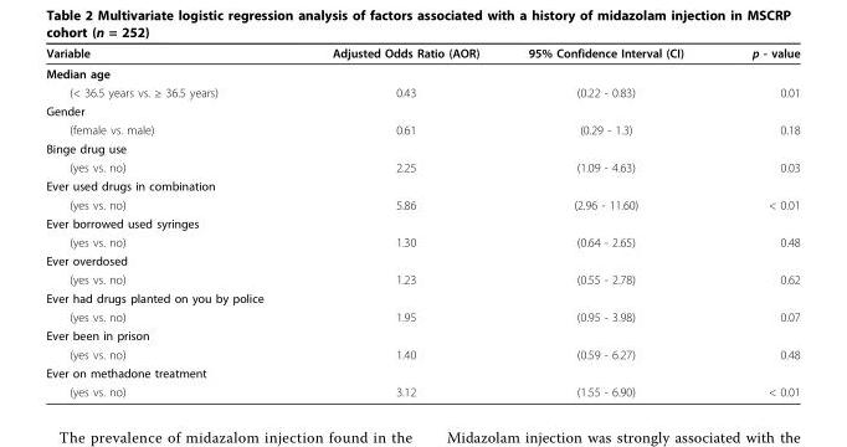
<table><thead><tr><td>Variable</td><td>Adjusted Odds Ratio (AOR)</td><td>95% Confidence Interval (CI)</td><td>p - value</td></tr></thead><tbody><tr><td colspan="4">Median age</td></tr><tr><td>(&lt; 36.5 years vs. ≥ 36.5 years)</td><td>0.43</td><td>(0.22 - 0.83)</td><td>0.01</td></tr><tr><td colspan="4">Gender</td></tr><tr><td>(female vs. male)</td><td>0.61</td><td>(0.29 - 1.3)</td><td>0.18</td></tr><tr><td colspan="4">Binge drug use</td></tr><tr><td>(yes vs. no)</td><td>2.25</td><td>(1.09 - 4.63)</td><td>0.03</td></tr><tr><td colspan="4">Ever used drugs in combination</td></tr><tr><td>(yes vs. no)</td><td>5.86</td><td>(2.96 - 11.60)</td><td>&lt; 0.01</td></tr><tr><td colspan="4">Ever borrowed used syringes</td></tr><tr><td>(yes vs. no)</td><td>1.30</td><td>(0.64 - 2.65)</td><td>0.48</td></tr><tr><td colspan="4">Ever overdosed</td></tr><tr><td>(yes vs. no)</td><td>1.23</td><td>(0.55 - 2.78)</td><td>0.62</td></tr><tr><td colspan="4">Ever had drugs planted on you by police</td></tr><tr><td>(yes vs. no)</td><td>1.95</td><td>(0.95 - 3.98)</td><td>0.07</td></tr><tr><td colspan="4">Ever been in prison</td></tr><tr><td>(yes vs. no)</td><td>1.40</td><td>(0.59 - 6.27)</td><td>0.48</td></tr><tr><td colspan="4">Ever on methadone treatment</td></tr><tr><td>(yes vs. no)</td><td>3.12</td><td>(1.55 - 6.90)</td><td>&lt; 0.01</td></tr></tbody></table>